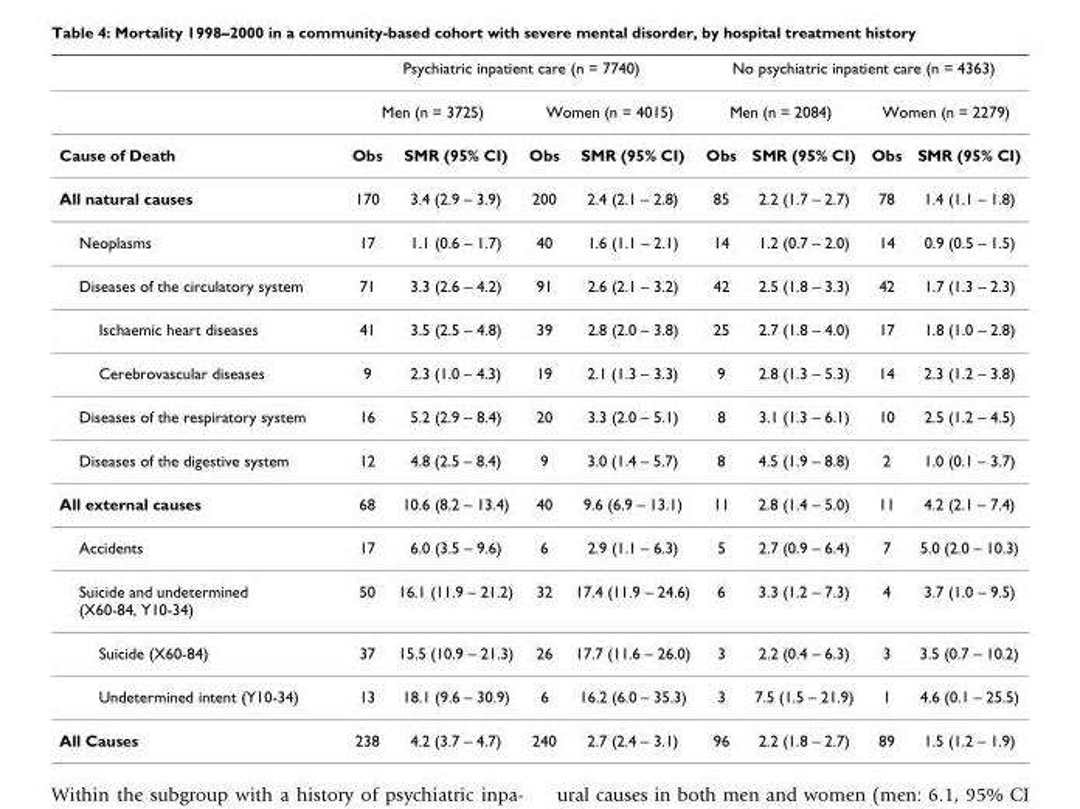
<table><thead><tr><td rowspan="3">Cause of Death</td><td colspan="4">Psychiatric inpatient care (n = 7740)</td><td colspan="4">No psychiatric inpatient care (n = 4363)</td></tr><tr><td colspan="2">Men (n = 3725)</td><td colspan="2">Women (n = 4015)</td><td colspan="2">Men (n = 2084)</td><td colspan="2">Women (n = 2279)</td></tr><tr><td>Obs</td><td>SMR (95% CI)</td><td>Obs</td><td>SMR (95% CI)</td><td>Obs</td><td>SMR (95% CI)</td><td>Obs</td><td>SMR (95% CI)</td></tr></thead><tbody><tr><td>All natural causes</td><td>170</td><td>3.4 (2.9 – 3.9)</td><td>200</td><td>2.4 (2.1 – 2.8)</td><td>85</td><td>2.2 (1.7 – 2.7)</td><td>78</td><td>1.4 (1.1 – 1.8)</td></tr><tr><td>Neoplasms</td><td>17</td><td>1.1 (0.6 – 1.7)</td><td>40</td><td>1.6 (1.1 – 2.1)</td><td>14</td><td>1.2 (0.7 – 2.0)</td><td>14</td><td>0.9 (0.5 – 1.5)</td></tr><tr><td>Diseases of the circulatory system</td><td>71</td><td>3.3 (2.6 – 4.2)</td><td>91</td><td>2.6 (2.1 – 3.2)</td><td>42</td><td>2.5 (1.8 – 3.3)</td><td>42</td><td>1.7 (1.3 – 2.3)</td></tr><tr><td>Ischaemic heart diseases</td><td>41</td><td>3.5 (2.5 – 4.8)</td><td>39</td><td>2.8 (2.0 – 3.8)</td><td>25</td><td>2.7 (1.8 – 4.0)</td><td>17</td><td>1.8 (1.0 – 2.8)</td></tr><tr><td>Cerebrovascular diseases</td><td>9</td><td>2.3 (1.0 – 4.3)</td><td>19</td><td>2.1 (1.3 – 3.3)</td><td>9</td><td>2.8 (1.3 – 5.3)</td><td>14</td><td>2.3 (1.2 – 3.8)</td></tr><tr><td>Diseases of the respiratory system</td><td>16</td><td>5.2 (2.9 – 8.4)</td><td>20</td><td>3.3 (2.0 – 5.1)</td><td>8</td><td>3.1 (1.3 – 6.1)</td><td>10</td><td>2.5 (1.2 – 4.5)</td></tr><tr><td>Diseases of the digestive system</td><td>12</td><td>4.8 (2.5 – 8.4)</td><td>9</td><td>3.0 (1.4 – 5.7)</td><td>8</td><td>4.5 (1.9 – 8.8)</td><td>2</td><td>1.0 (0.1 – 3.7)</td></tr><tr><td>All external causes</td><td>68</td><td>10.6 (8.2 – 13.4)</td><td>40</td><td>9.6 (6.9 – 13.1)</td><td>11</td><td>2.8 (1.4 – 5.0)</td><td>11</td><td>4.2 (2.1 – 7.4)</td></tr><tr><td>Accidents</td><td>17</td><td>6.0 (3.5 – 9.6)</td><td>6</td><td>2.9 (1.1 – 6.3)</td><td>5</td><td>2.7 (0.9 – 6.4)</td><td>7</td><td>5.0 (2.0 – 10.3)</td></tr><tr><td>Suicide and undetermined (X60-84, Y10-34)</td><td>50</td><td>16.1 (11.9 – 21.2)</td><td>32</td><td>17.4 (11.9 – 24.6)</td><td>6</td><td>3.3 (1.2 – 7.3)</td><td>4</td><td>3.7 (1.0 – 9.5)</td></tr><tr><td>Suicide (X60-84)</td><td>37</td><td>15.5 (10.9 – 21.3)</td><td>26</td><td>17.7 (11.6 – 26.0)</td><td>3</td><td>2.2 (0.4 – 6.3)</td><td>3</td><td>3.5 (0.7 – 10.2)</td></tr><tr><td>Undetermined intent (Y10-34)</td><td>13</td><td>18.1 (9.6 – 30.9)</td><td>6</td><td>16.2 (6.0 – 35.3)</td><td>3</td><td>7.5 (1.5 – 21.9)</td><td>1</td><td>4.6 (0.1 – 25.5)</td></tr><tr><td>All Causes</td><td>238</td><td>4.2 (3.7 – 4.7)</td><td>240</td><td>2.7 (2.4 – 3.1)</td><td>96</td><td>2.2 (1.8 – 2.7)</td><td>89</td><td>1.5 (1.2 – 1.9)</td></tr></tbody></table>